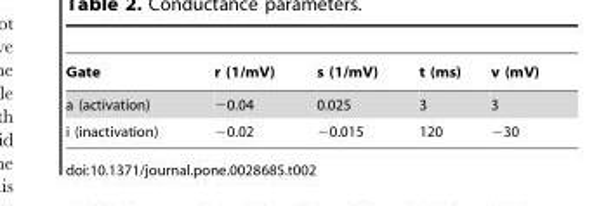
<table><thead><tr><td>Gate</td><td>r (1/mV)</td><td>s (1/mV)</td><td>t (ms)</td><td>v (mV)</td></tr></thead><tbody><tr><td>a (activation)</td><td>−0.04</td><td>0.025</td><td>3</td><td>3</td></tr><tr><td>i (inactivation)</td><td>−0.02</td><td>−0.015</td><td>120</td><td>−30</td></tr></tbody></table>